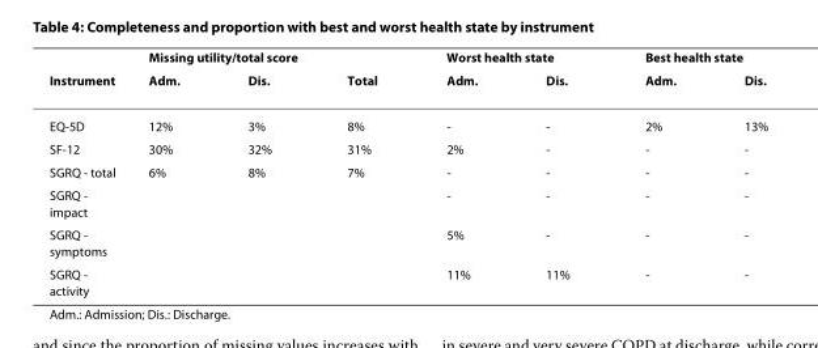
<table><thead><tr><td rowspan="2">Instrument</td><td colspan="3">Missing utility/total score</td><td colspan="2">Worst health state</td><td colspan="2">Best health state</td></tr><tr><td>Adm.</td><td>Dis.</td><td>Total</td><td>Adm.</td><td>Dis.</td><td>Adm.</td><td>Dis.</td></tr></thead><tbody><tr><td>EQ-5D</td><td>12%</td><td>3%</td><td>8%</td><td>-</td><td>-</td><td>2%</td><td>13%</td></tr><tr><td>SF-12</td><td>30%</td><td>32%</td><td>31%</td><td>2%</td><td>-</td><td>-</td><td>-</td></tr><tr><td>SGRQ - total</td><td>6%</td><td>8%</td><td>7%</td><td>-</td><td>-</td><td>-</td><td>-</td></tr><tr><td>SGRQ - impact</td><td></td><td></td><td></td><td>-</td><td>-</td><td>-</td><td>-</td></tr><tr><td>SGRQ - symptoms</td><td></td><td></td><td></td><td>5%</td><td>-</td><td>-</td><td>-</td></tr><tr><td>SGRQ - activity</td><td></td><td></td><td></td><td>11%</td><td>11%</td><td>-</td><td>-</td></tr></tbody></table>